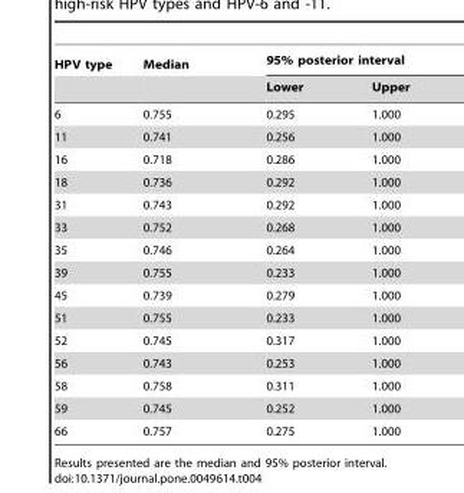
<table><thead><tr><td rowspan="2">HPV type</td><td rowspan="2">Median</td><td colspan="2">95% posterior interval</td></tr><tr><td>Lower</td><td>Upper</td></tr></thead><tbody><tr><td>6</td><td>0.755</td><td>0.295</td><td>1.000</td></tr><tr><td>11</td><td>0.741</td><td>0.256</td><td>1.000</td></tr><tr><td>16</td><td>0.718</td><td>0.286</td><td>1.000</td></tr><tr><td>18</td><td>0.736</td><td>0.292</td><td>1.000</td></tr><tr><td>31</td><td>0.743</td><td>0.292</td><td>1.000</td></tr><tr><td>33</td><td>0.752</td><td>0.268</td><td>1.000</td></tr><tr><td>35</td><td>0.746</td><td>0.264</td><td>1.000</td></tr><tr><td>39</td><td>0.755</td><td>0.233</td><td>1.000</td></tr><tr><td>45</td><td>0.739</td><td>0.279</td><td>1.000</td></tr><tr><td>51</td><td>0.755</td><td>0.233</td><td>1.000</td></tr><tr><td>52</td><td>0.745</td><td>0.317</td><td>1.000</td></tr><tr><td>56</td><td>0.743</td><td>0.253</td><td>1.000</td></tr><tr><td>58</td><td>0.758</td><td>0.311</td><td>1.000</td></tr><tr><td>59</td><td>0.745</td><td>0.252</td><td>1.000</td></tr><tr><td>66</td><td>0.757</td><td>0.275</td><td>1.000</td></tr></tbody></table>